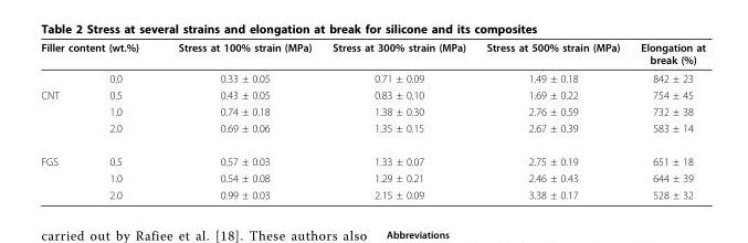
<table><thead><tr><td colspan="2">Filler content (wt.%)</td><td rowspan="2">Stress at 100% strain (MPa) 0.33 ± 0.05</td><td rowspan="2">Stress at 300% strain (MPa) 0.71 ± 0.09</td><td rowspan="2">Stress at 500% strain (MPa) 1.49 ± 0.18</td><td rowspan="2">Elongation at break (%) 842 ± 23</td></tr><tr><td></td><td>0.0</td></tr></thead><tbody><tr><td rowspan="3">CNT</td><td>0.5</td><td>0.43 ± 0.05</td><td>0.83 ± 0.10</td><td>1.69 ± 0.22</td><td>754 ± 45</td></tr><tr><td>1.0</td><td>0.74 ± 0.18</td><td>1.38 ± 0.30</td><td>2.76 ± 0.59</td><td>732 ± 38</td></tr><tr><td>2.0</td><td>0.69 ± 0.06</td><td>1.35 ± 0.15</td><td>2.67 ± 0.39</td><td>583 ± 14</td></tr><tr><td rowspan="3">FGS</td><td>0.5</td><td>0.57 ± 0.03</td><td>1.33 ± 0.07</td><td>2.75 ± 0.19</td><td>651 ± 18</td></tr><tr><td>1.0</td><td>0.54 ± 0.08</td><td>1.29 ± 0.21</td><td>2.46 ± 0.43</td><td>644 ± 39</td></tr><tr><td>2.0</td><td>0.99 ± 0.03</td><td>2.15 ± 0.09</td><td>3.38 ± 0.17</td><td>528 ± 32</td></tr></tbody></table>